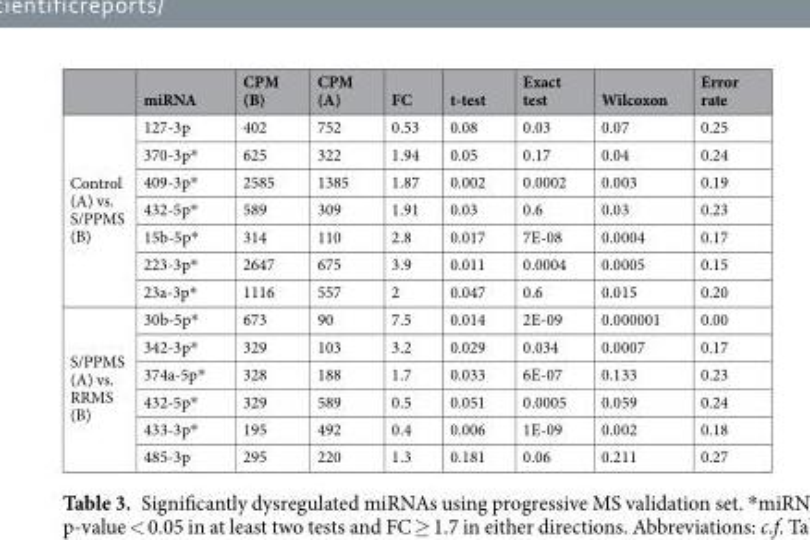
<table><thead><tr><td></td><td>miRNA</td><td>CPM (B)</td><td>CPM (A)</td><td>FC</td><td>t-test</td><td>Exact test</td><td>Wilcoxon</td><td>Error rate</td></tr></thead><tbody><tr><td rowspan="7">Control (A) vs. S/PPMS (B)</td><td>127-3p</td><td>402</td><td>752</td><td>0.53</td><td>0.08</td><td>0.03</td><td>0.07</td><td>0.25</td></tr><tr><td>370-3p*</td><td>625</td><td>322</td><td>1.94</td><td>0.05</td><td>0.17</td><td>0.04</td><td>0.24</td></tr><tr><td>409-3p*</td><td>2585</td><td>1385</td><td>1.87</td><td>0.002</td><td>0.0002</td><td>0.003</td><td>0.19</td></tr><tr><td>432-5p*</td><td>589</td><td>309</td><td>1.91</td><td>0.03</td><td>0.6</td><td>0.03</td><td>0.23</td></tr><tr><td>15b-5p*</td><td>314</td><td>110</td><td>2.8</td><td>0.017</td><td>7E-08</td><td>0.0004</td><td>0.17</td></tr><tr><td>223-3p*</td><td>2647</td><td>675</td><td>3.9</td><td>0.011</td><td>0.0004</td><td>0.0005</td><td>0.15</td></tr><tr><td>23a-3p*</td><td>1116</td><td>557</td><td>2</td><td>0.047</td><td>0.6</td><td>0.015</td><td>0.20</td></tr><tr><td rowspan="6">S/PPMS (A) vs. RRMS (B)</td><td>30b-5p*</td><td>673</td><td>90</td><td>7.5</td><td>0.014</td><td>2E-09</td><td>0.000001</td><td>0.00</td></tr><tr><td>342-3p*</td><td>329</td><td>103</td><td>3.2</td><td>0.029</td><td>0.034</td><td>0.0007</td><td>0.17</td></tr><tr><td>374a-5p*</td><td>328</td><td>188</td><td>1.7</td><td>0.033</td><td>6E-07</td><td>0.133</td><td>0.23</td></tr><tr><td>432-5p*</td><td>329</td><td>589</td><td>0.5</td><td>0.051</td><td>0.0005</td><td>0.059</td><td>0.24</td></tr><tr><td>433-3p*</td><td>195</td><td>492</td><td>0.4</td><td>0.006</td><td>1E-09</td><td>0.002</td><td>0.18</td></tr><tr><td>485-3p</td><td>295</td><td>220</td><td>1.3</td><td>0.181</td><td>0.06</td><td>0.211</td><td>0.27</td></tr></tbody></table>